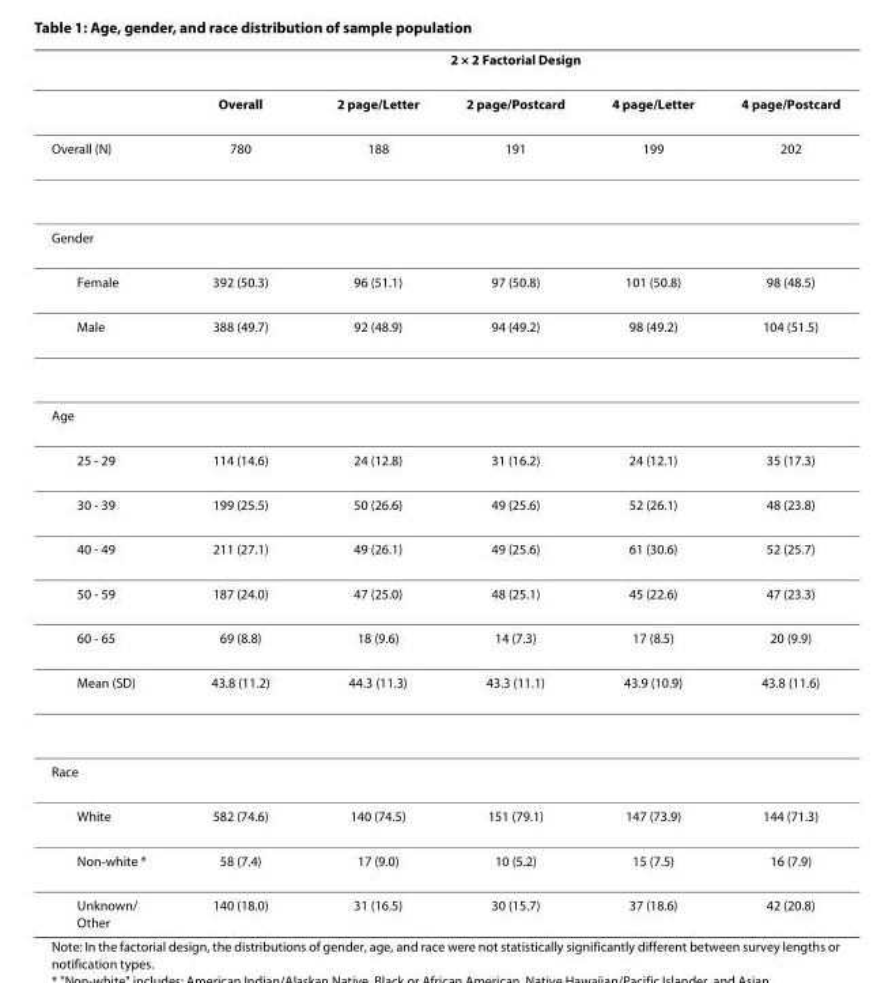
<table><thead><tr><td rowspan="2"></td><td colspan="5">2 × 2 Factorial Design</td></tr><tr><td>Overall</td><td>2 page/Letter</td><td>2 page/Postcard</td><td>4 page/Letter</td><td>4 page/Postcard</td></tr></thead><tbody><tr><td>Overall (N)</td><td>780</td><td>188</td><td>191</td><td>199</td><td>202</td></tr><tr><td colspan="6">Gender</td></tr><tr><td>Female</td><td>392 (50.3)</td><td>96 (51.1)</td><td>97 (50.8)</td><td>101 (50.8)</td><td>98 (48.5)</td></tr><tr><td>Male</td><td>388 (49.7)</td><td>92 (48.9)</td><td>94 (49.2)</td><td>98 (49.2)</td><td>104 (51.5)</td></tr><tr><td colspan="6">Age</td></tr><tr><td>25 - 29</td><td>114 (14.6)</td><td>24 (12.8)</td><td>31 (16.2)</td><td>24 (12.1)</td><td>35 (17.3)</td></tr><tr><td>30 - 39</td><td>199 (25.5)</td><td>50 (26.6)</td><td>49 (25.6)</td><td>52 (26.1)</td><td>48 (23.8)</td></tr><tr><td>40 - 49</td><td>211 (27.1)</td><td>49 (26.1)</td><td>49 (25.6)</td><td>61 (30.6)</td><td>52 (25.7)</td></tr><tr><td>50 - 59</td><td>187 (24.0)</td><td>47 (25.0)</td><td>48 (25.1)</td><td>45 (22.6)</td><td>47 (23.3)</td></tr><tr><td>60 - 65</td><td>69 (8.8)</td><td>18 (9.6)</td><td>14 (7.3)</td><td>17 (8.5)</td><td>20 (9.9)</td></tr><tr><td>Mean (SD)</td><td>43.8 (11.2)</td><td>44.3 (11.3)</td><td>43.3 (11.1)</td><td>43.9 (10.9)</td><td>43.8 (11.6)</td></tr><tr><td colspan="6">Race</td></tr><tr><td>White</td><td>582 (74.6)</td><td>140 (74.5)</td><td>151 (79.1)</td><td>147 (73.9)</td><td>144 (71.3)</td></tr><tr><td>Non-white *</td><td>58 (7.4)</td><td>17 (9.0)</td><td>10 (5.2)</td><td>15 (7.5)</td><td>16 (7.9)</td></tr><tr><td>Unknown/ Other</td><td>140 (18.0)</td><td>31 (16.5)</td><td>30 (15.7)</td><td>37 (18.6)</td><td>42 (20.8)</td></tr></tbody></table>